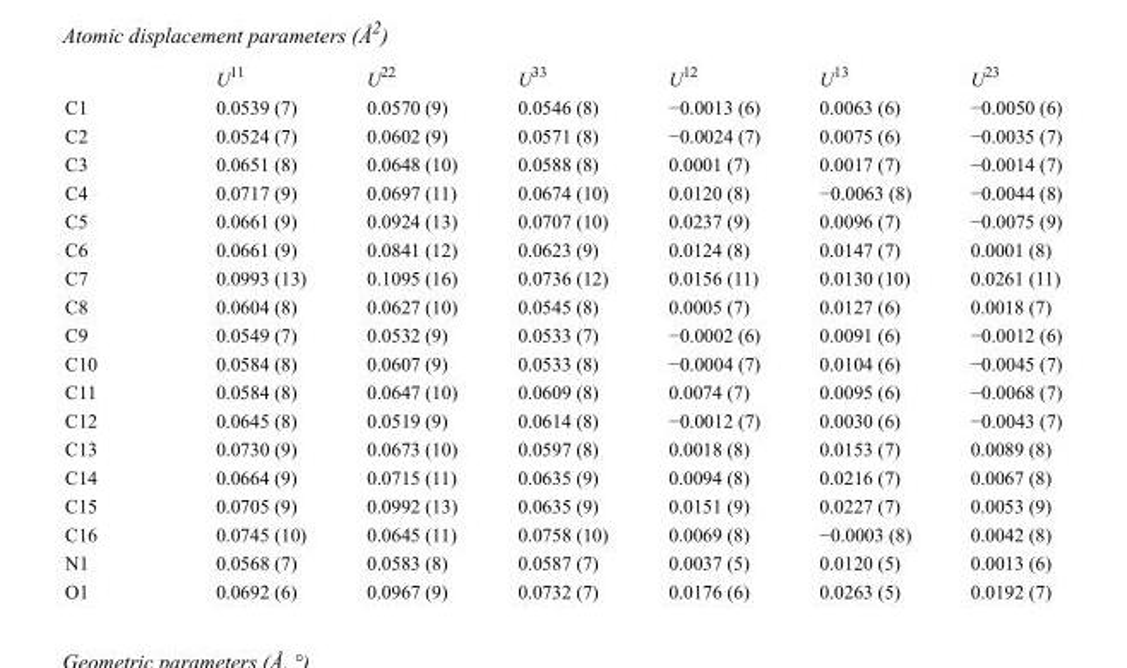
<table><thead><tr><td></td><td>U<sup>11</sup></td><td>U<sup>22</sup></td><td>U<sup>33</sup></td><td>U<sup>12</sup></td><td>U<sup>13</sup></td><td>U<sup>23</sup></td></tr></thead><tbody><tr><td>C1</td><td>0.0539 (7)</td><td>0.0570 (9)</td><td>0.0546 (8)</td><td>−0.0013 (6)</td><td>0.0063 (6)</td><td>−0.0050 (6)</td></tr><tr><td>C2</td><td>0.0524 (7)</td><td>0.0602 (9)</td><td>0.0571 (8)</td><td>−0.0024 (7)</td><td>0.0075 (6)</td><td>−0.0035 (7)</td></tr><tr><td>C3</td><td>0.0651 (8)</td><td>0.0648 (10)</td><td>0.0588 (8)</td><td>0.0001 (7)</td><td>0.0017 (7)</td><td>−0.0014 (7)</td></tr><tr><td>C4</td><td>0.0717 (9)</td><td>0.0697 (11)</td><td>0.0674 (10)</td><td>0.0120 (8)</td><td>−0.0063 (8)</td><td>−0.0044 (8)</td></tr><tr><td>C5</td><td>0.0661 (9)</td><td>0.0924 (13)</td><td>0.0707 (10)</td><td>0.0237 (9)</td><td>0.0096 (7)</td><td>−0.0075 (9)</td></tr><tr><td>C6</td><td>0.0661 (9)</td><td>0.0841 (12)</td><td>0.0623 (9)</td><td>0.0124 (8)</td><td>0.0147 (7)</td><td>0.0001 (8)</td></tr><tr><td>C7</td><td>0.0993 (13)</td><td>0.1095 (16)</td><td>0.0736 (12)</td><td>0.0156 (11)</td><td>0.0130 (10)</td><td>0.0261 (11)</td></tr><tr><td>C8</td><td>0.0604 (8)</td><td>0.0627 (10)</td><td>0.0545 (8)</td><td>0.0005 (7)</td><td>0.0127 (6)</td><td>0.0018 (7)</td></tr><tr><td>C9</td><td>0.0549 (7)</td><td>0.0532 (9)</td><td>0.0533 (7)</td><td>−0.0002 (6)</td><td>0.0091 (6)</td><td>−0.0012 (6)</td></tr><tr><td>C10</td><td>0.0584 (8)</td><td>0.0607 (9)</td><td>0.0533 (8)</td><td>−0.0004 (7)</td><td>0.0104 (6)</td><td>−0.0045 (7)</td></tr><tr><td>C11</td><td>0.0584 (8)</td><td>0.0647 (10)</td><td>0.0609 (8)</td><td>0.0074 (7)</td><td>0.0095 (6)</td><td>−0.0068 (7)</td></tr><tr><td>C12</td><td>0.0645 (8)</td><td>0.0519 (9)</td><td>0.0614 (8)</td><td>−0.0012 (7)</td><td>0.0030 (6)</td><td>−0.0043 (7)</td></tr><tr><td>C13</td><td>0.0730 (9)</td><td>0.0673 (10)</td><td>0.0597 (8)</td><td>0.0018 (8)</td><td>0.0153 (7)</td><td>0.0089 (8)</td></tr><tr><td>C14</td><td>0.0664 (9)</td><td>0.0715 (11)</td><td>0.0635 (9)</td><td>0.0094 (8)</td><td>0.0216 (7)</td><td>0.0067 (8)</td></tr><tr><td>C15</td><td>0.0705 (9)</td><td>0.0992 (13)</td><td>0.0635 (9)</td><td>0.0151 (9)</td><td>0.0227 (7)</td><td>0.0053 (9)</td></tr><tr><td>C16</td><td>0.0745 (10)</td><td>0.0645 (11)</td><td>0.0758 (10)</td><td>0.0069 (8)</td><td>−0.0003 (8)</td><td>0.0042 (8)</td></tr><tr><td>N1</td><td>0.0568 (7)</td><td>0.0583 (8)</td><td>0.0587 (7)</td><td>0.0037 (5)</td><td>0.0120 (5)</td><td>0.0013 (6)</td></tr><tr><td>O1</td><td>0.0692 (6)</td><td>0.0967 (9)</td><td>0.0732 (7)</td><td>0.0176 (6)</td><td>0.0263 (5)</td><td>0.0192 (7)</td></tr></tbody></table>